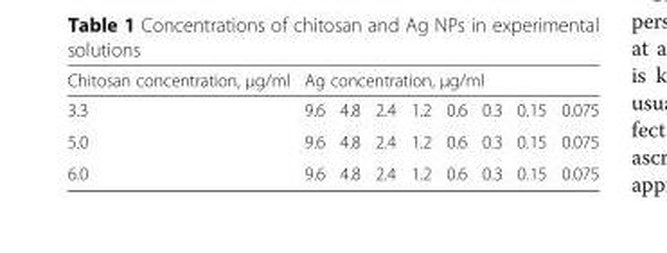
<table><thead><tr><td rowspan="2">Chitosan concentration, μg/ml 3.3</td><td colspan="8">Ag concentration, μg/ml</td></tr><tr><td>9.6</td><td>4.8</td><td>2.4</td><td>1.2</td><td>0.6</td><td>0.3</td><td>0.15</td><td>0.075</td></tr></thead><tbody><tr><td>5.0</td><td>9.6</td><td>4.8</td><td>2.4</td><td>1.2</td><td>0.6</td><td>0.3</td><td>0.15</td><td>0.075</td></tr><tr><td>6.0</td><td>9.6</td><td>4.8</td><td>2.4</td><td>1.2</td><td>0.6</td><td>0.3</td><td>0.15</td><td>0.075</td></tr></tbody></table>